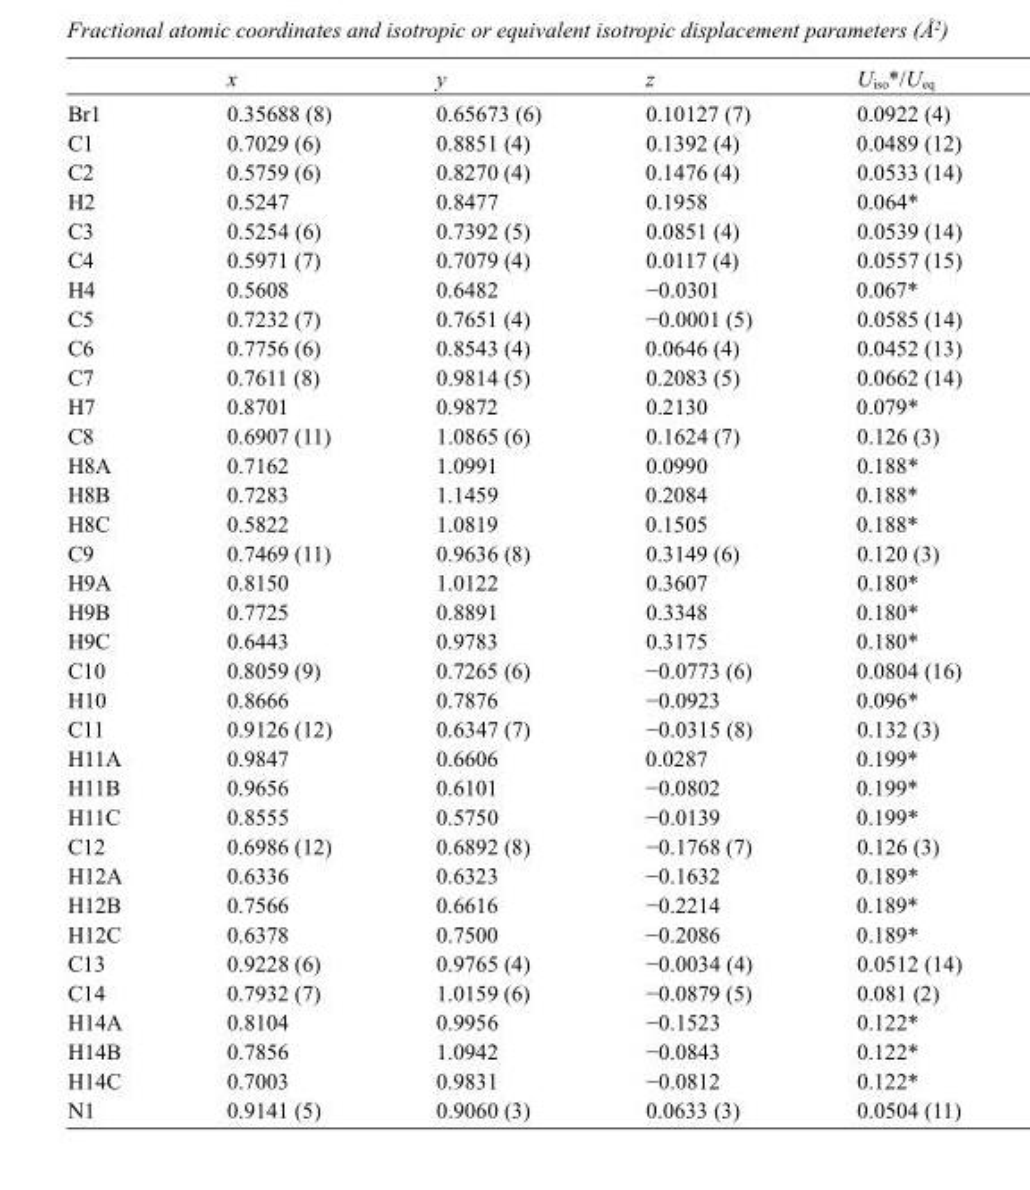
<table><thead><tr><td></td><td>x</td><td>y</td><td>z</td><td>U<sub>iso</sub>*/U<sub>eq</sub></td></tr></thead><tbody><tr><td>Br1</td><td>0.35688 (8)</td><td>0.65673 (6)</td><td>0.10127 (7)</td><td>0.0922 (4)</td></tr><tr><td>C1</td><td>0.7029 (6)</td><td>0.8851 (4)</td><td>0.1392 (4)</td><td>0.0489 (12)</td></tr><tr><td>C2</td><td>0.5759 (6)</td><td>0.8270 (4)</td><td>0.1476 (4)</td><td>0.0533 (14)</td></tr><tr><td>H2</td><td>0.5247</td><td>0.8477</td><td>0.1958</td><td>0.064*</td></tr><tr><td>C3</td><td>0.5254 (6)</td><td>0.7392 (5)</td><td>0.0851 (4)</td><td>0.0539 (14)</td></tr><tr><td>C4</td><td>0.5971 (7)</td><td>0.7079 (4)</td><td>0.0117 (4)</td><td>0.0557 (15)</td></tr><tr><td>H4</td><td>0.5608</td><td>0.6482</td><td>−0.0301</td><td>0.067*</td></tr><tr><td>C5</td><td>0.7232 (7)</td><td>0.7651 (4)</td><td>−0.0001 (5)</td><td>0.0585 (14)</td></tr><tr><td>C6</td><td>0.7756 (6)</td><td>0.8543 (4)</td><td>0.0646 (4)</td><td>0.0452 (13)</td></tr><tr><td>C7</td><td>0.7611 (8)</td><td>0.9814 (5)</td><td>0.2083 (5)</td><td>0.0662 (14)</td></tr><tr><td>H7</td><td>0.8701</td><td>0.9872</td><td>0.2130</td><td>0.079*</td></tr><tr><td>C8</td><td>0.6907 (11)</td><td>1.0865 (6)</td><td>0.1624 (7)</td><td>0.126 (3)</td></tr><tr><td>H8A</td><td>0.7162</td><td>1.0991</td><td>0.0990</td><td>0.188*</td></tr><tr><td>H8B</td><td>0.7283</td><td>1.1459</td><td>0.2084</td><td>0.188*</td></tr><tr><td>H8C</td><td>0.5822</td><td>1.0819</td><td>0.1505</td><td>0.188*</td></tr><tr><td>C9</td><td>0.7469 (11)</td><td>0.9636 (8)</td><td>0.3149 (6)</td><td>0.120 (3)</td></tr><tr><td>H9A</td><td>0.8150</td><td>1.0122</td><td>0.3607</td><td>0.180*</td></tr><tr><td>H9B</td><td>0.7725</td><td>0.8891</td><td>0.3348</td><td>0.180*</td></tr><tr><td>H9C</td><td>0.6443</td><td>0.9783</td><td>0.3175</td><td>0.180*</td></tr><tr><td>C10</td><td>0.8059 (9)</td><td>0.7265 (6)</td><td>−0.0773 (6)</td><td>0.0804 (16)</td></tr><tr><td>H10</td><td>0.8666</td><td>0.7876</td><td>−0.0923</td><td>0.096*</td></tr><tr><td>C11</td><td>0.9126 (12)</td><td>0.6347 (7)</td><td>−0.0315 (8)</td><td>0.132 (3)</td></tr><tr><td>H11A</td><td>0.9847</td><td>0.6606</td><td>0.0287</td><td>0.199*</td></tr><tr><td>H11B</td><td>0.9656</td><td>0.6101</td><td>−0.0802</td><td>0.199*</td></tr><tr><td>H11C</td><td>0.8555</td><td>0.5750</td><td>−0.0139</td><td>0.199*</td></tr><tr><td>C12</td><td>0.6986 (12)</td><td>0.6892 (8)</td><td>−0.1768 (7)</td><td>0.126 (3)</td></tr><tr><td>H12A</td><td>0.6336</td><td>0.6323</td><td>−0.1632</td><td>0.189*</td></tr><tr><td>H12B</td><td>0.7566</td><td>0.6616</td><td>−0.2214</td><td>0.189*</td></tr><tr><td>H12C</td><td>0.6378</td><td>0.7500</td><td>−0.2086</td><td>0.189*</td></tr><tr><td>C13</td><td>0.9228 (6)</td><td>0.9765 (4)</td><td>−0.0034 (4)</td><td>0.0512 (14)</td></tr><tr><td>C14</td><td>0.7932 (7)</td><td>1.0159 (6)</td><td>−0.0879 (5)</td><td>0.081 (2)</td></tr><tr><td>H14A</td><td>0.8104</td><td>0.9956</td><td>−0.1523</td><td>0.122*</td></tr><tr><td>H14B</td><td>0.7856</td><td>1.0942</td><td>−0.0843</td><td>0.122*</td></tr><tr><td>H14C</td><td>0.7003</td><td>0.9831</td><td>−0.0812</td><td>0.122*</td></tr><tr><td>N1</td><td>0.9141 (5)</td><td>0.9060 (3)</td><td>0.0633 (3)</td><td>0.0504 (11)</td></tr></tbody></table>